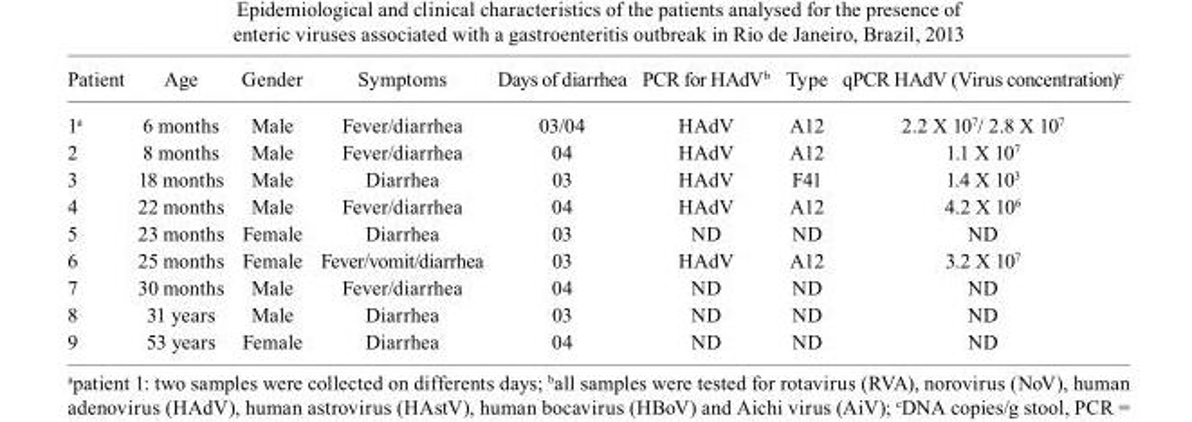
<table><thead><tr><td>Patient</td><td>Age</td><td>Gender</td><td>Symptoms</td><td>Days of diarrhea</td><td>PCR for HAdV<sup>b</sup></td><td>Type</td><td>qPCR HAdV (Virus concentration)<sup>c</sup></td></tr></thead><tbody><tr><td>1<sup>a</sup></td><td>6 months</td><td>Male</td><td>Fever/diarrhea</td><td>03/04</td><td>HAdV</td><td>A12</td><td>2.2 X 10<sup>7</sup>/ 2.8 X 10<sup>7</sup></td></tr><tr><td>2</td><td>8 months</td><td>Male</td><td>Fever/diarrhea</td><td>04</td><td>HAdV</td><td>A12</td><td>1.1 X 10<sup>7</sup></td></tr><tr><td>3</td><td>18 months</td><td>Male</td><td>Diarrhea</td><td>03</td><td>HAdV</td><td>F41</td><td>1.4 X 10<sup>3</sup></td></tr><tr><td>4</td><td>22 months</td><td>Male</td><td>Fever/diarrhea</td><td>04</td><td>HAdV</td><td>A12</td><td>4.2 X 10<sup>6</sup></td></tr><tr><td>5</td><td>23 months</td><td>Female</td><td>Diarrhea</td><td>03</td><td>ND</td><td>ND</td><td>ND</td></tr><tr><td>6</td><td>25 months</td><td>Female</td><td>Fever/vomit/diarrhea</td><td>03</td><td>HAdV</td><td>A12</td><td>3.2 X 10<sup>7</sup></td></tr><tr><td>7</td><td>30 months</td><td>Male</td><td>Fever/diarrhea</td><td>04</td><td>ND</td><td>ND</td><td>ND</td></tr><tr><td>8</td><td>31 years</td><td>Male</td><td>Diarrhea</td><td>03</td><td>ND</td><td>ND</td><td>ND</td></tr><tr><td>9</td><td>53 years</td><td>Female</td><td>Diarrhea</td><td>04</td><td>ND</td><td>ND</td><td>ND</td></tr></tbody></table>